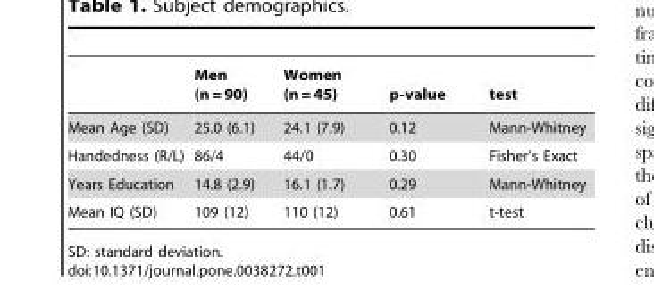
<table><thead><tr><td></td><td>Men (n = 90)</td><td>Women (n = 45)</td><td>p-value</td><td>test</td></tr></thead><tbody><tr><td>Mean Age (SD)</td><td>25.0 (6.1)</td><td>24.1 (7.9)</td><td>0.12</td><td>Mann-Whitney</td></tr><tr><td>Handedness (R/L)</td><td>86/4</td><td>44/0</td><td>0.30</td><td>Fisher’s Exact</td></tr><tr><td>Years Education</td><td>14.8 (2.9)</td><td>16.1 (1.7)</td><td>0.29</td><td>Mann-Whitney</td></tr><tr><td>Mean IQ (SD)</td><td>109 (12)</td><td>110 (12)</td><td>0.61</td><td>t-test</td></tr></tbody></table>